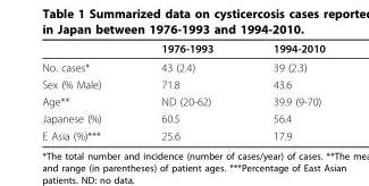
<table><thead><tr><td></td><td>1976-1993</td><td>1994-2010</td></tr></thead><tbody><tr><td>No. cases*</td><td>43 (2.4)</td><td>39 (2.3)</td></tr><tr><td>Sex (% Male)</td><td>71.8</td><td>43.6</td></tr><tr><td>Age**</td><td>ND (20-62)</td><td>39.9 (9-70)</td></tr><tr><td>Japanese (%)</td><td>60.5</td><td>56.4</td></tr><tr><td>E Asia (%)***</td><td>25.6</td><td>17.9</td></tr></tbody></table>